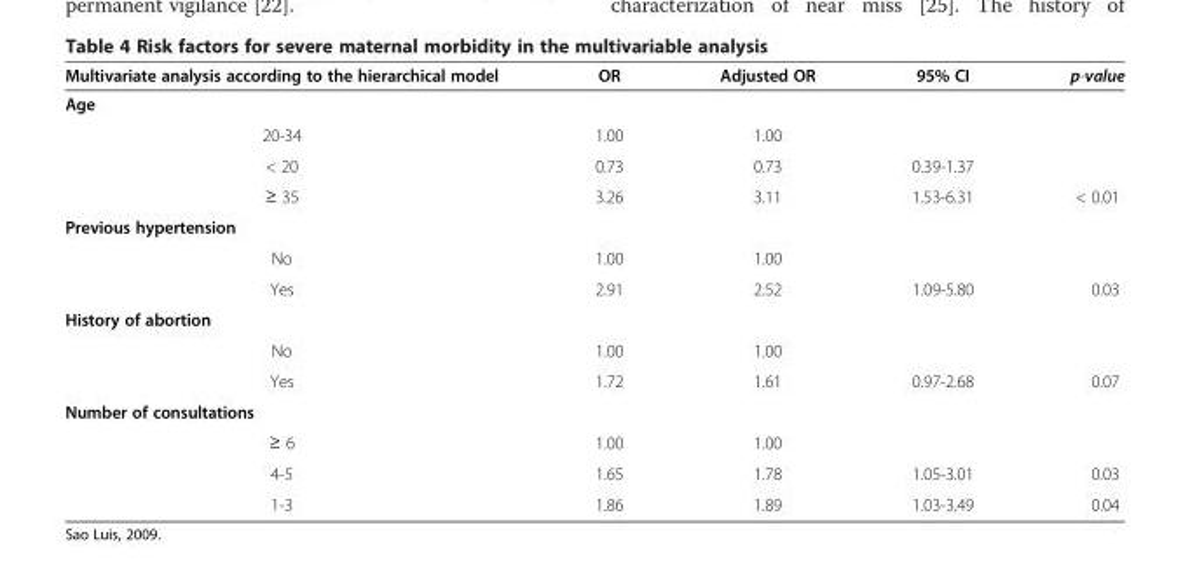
<table><thead><tr><td>Multivariate analysis according to the hierarchical model</td><td>OR</td><td>Adjusted OR</td><td>95% CI</td><td>p-value</td></tr></thead><tbody><tr><td colspan="5">Age</td></tr><tr><td>20-34</td><td>1.00</td><td>1.00</td><td></td><td></td></tr><tr><td>&lt; 20</td><td>0.73</td><td>0.73</td><td>0.39-1.37</td><td></td></tr><tr><td>≥ 35</td><td>3.26</td><td>3.11</td><td>1.53-6.31</td><td>&lt; 0.01</td></tr><tr><td colspan="5">Previous hypertension</td></tr><tr><td>No</td><td>1.00</td><td>1.00</td><td></td><td></td></tr><tr><td>Yes</td><td>2.91</td><td>2.52</td><td>1.09-5.80</td><td>0.03</td></tr><tr><td colspan="5">History of abortion</td></tr><tr><td>No</td><td>1.00</td><td>1.00</td><td></td><td></td></tr><tr><td>Yes</td><td>1.72</td><td>1.61</td><td>0.97-2.68</td><td>0.07</td></tr><tr><td colspan="5">Number of consultations</td></tr><tr><td>≥ 6</td><td>1.00</td><td>1.00</td><td></td><td></td></tr><tr><td>4-5</td><td>1.65</td><td>1.78</td><td>1.05-3.01</td><td>0.03</td></tr><tr><td>1-3</td><td>1.86</td><td>1.89</td><td>1.03-3.49</td><td>0.04</td></tr></tbody></table>